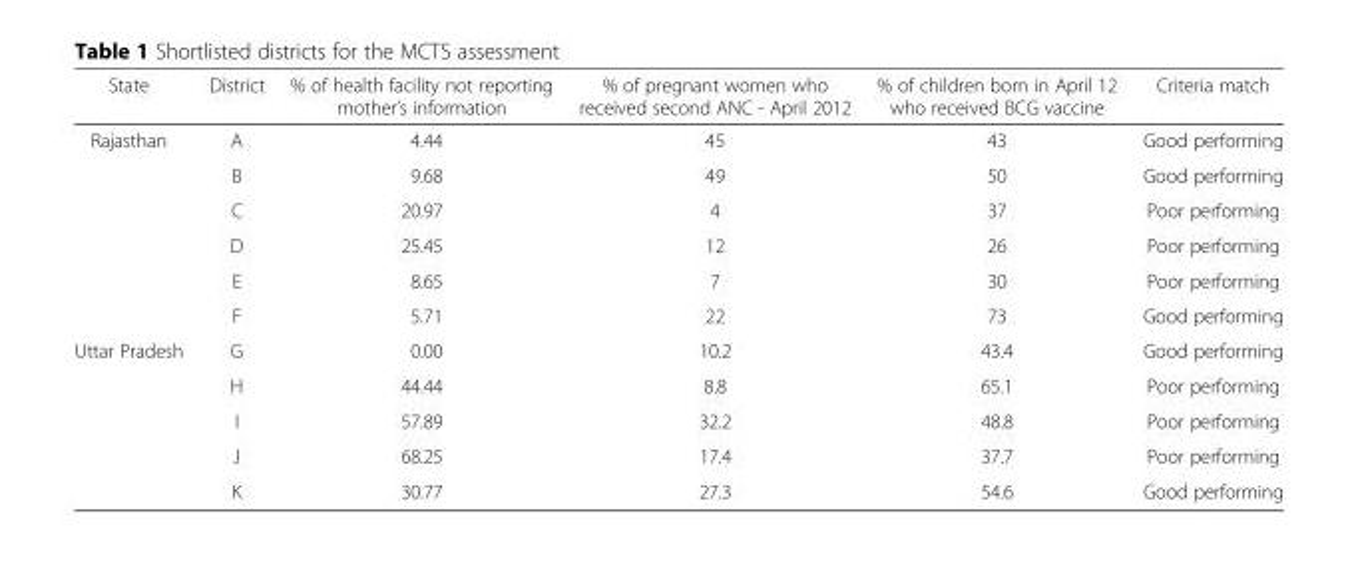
<table><thead><tr><td>State</td><td>District</td><td>% of health facility not reporting mother’s information</td><td>% of pregnant women who received second ANC - April 2012</td><td>% of children born in April 12 who received BCG vaccine</td><td>Criteria match</td></tr></thead><tbody><tr><td rowspan="6">Rajasthan</td><td>A</td><td>4.44</td><td>45</td><td>43</td><td>Good performing</td></tr><tr><td>B</td><td>9.68</td><td>49</td><td>50</td><td>Good performing</td></tr><tr><td>C</td><td>20.97</td><td>4</td><td>37</td><td>Poor performing</td></tr><tr><td>D</td><td>25.45</td><td>12</td><td>26</td><td>Poor performing</td></tr><tr><td>E</td><td>8.65</td><td>7</td><td>30</td><td>Poor performing</td></tr><tr><td>F</td><td>5.71</td><td>22</td><td>73</td><td>Good performing</td></tr><tr><td rowspan="5">Uttar Pradesh</td><td>G</td><td>0.00</td><td>10.2</td><td>43.4</td><td>Good performing</td></tr><tr><td>H</td><td>44.44</td><td>8.8</td><td>65.1</td><td>Poor performing</td></tr><tr><td>I</td><td>57.89</td><td>32.2</td><td>48.8</td><td>Poor performing</td></tr><tr><td>J</td><td>68.25</td><td>17.4</td><td>37.7</td><td>Poor performing</td></tr><tr><td>K</td><td>30.77</td><td>27.3</td><td>54.6</td><td>Good performing</td></tr></tbody></table>